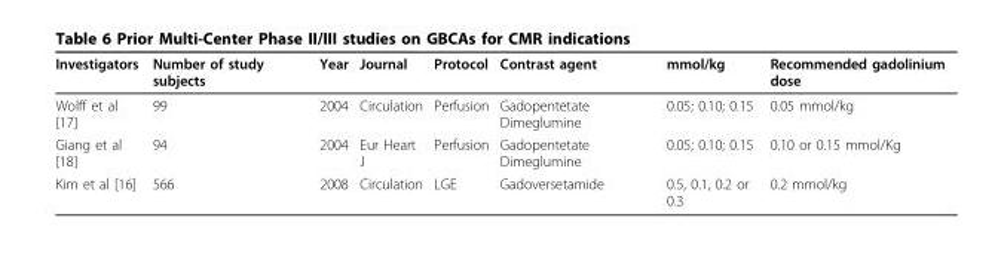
<table><thead><tr><td>Investigators</td><td>Number of study subjects</td><td>Year</td><td>Journal</td><td>Protocol</td><td>Contrast agent</td><td>mmol/kg</td><td>Recommended gadolinium dose</td></tr></thead><tbody><tr><td>Wolff et al [17]</td><td>99</td><td>2004</td><td>Circulation</td><td>Perfusion</td><td>Gadopentetate Dimeglumine</td><td>0.05; 0.10; 0.15</td><td>0.05 mmol/kg</td></tr><tr><td>Giang et al [18]</td><td>94</td><td>2004</td><td>Eur Heart J</td><td>Perfusion</td><td>Gadopentetate Dimeglumine</td><td>0.05; 0.10; 0.15</td><td>0.10 or 0.15 mmol/Kg</td></tr><tr><td>Kim et al [16]</td><td>566</td><td>2008</td><td>Circulation</td><td>LGE</td><td>Gadoversetamide</td><td>0.5, 0.1, 0.2 or 0.3</td><td>0.2 mmol/kg</td></tr></tbody></table>